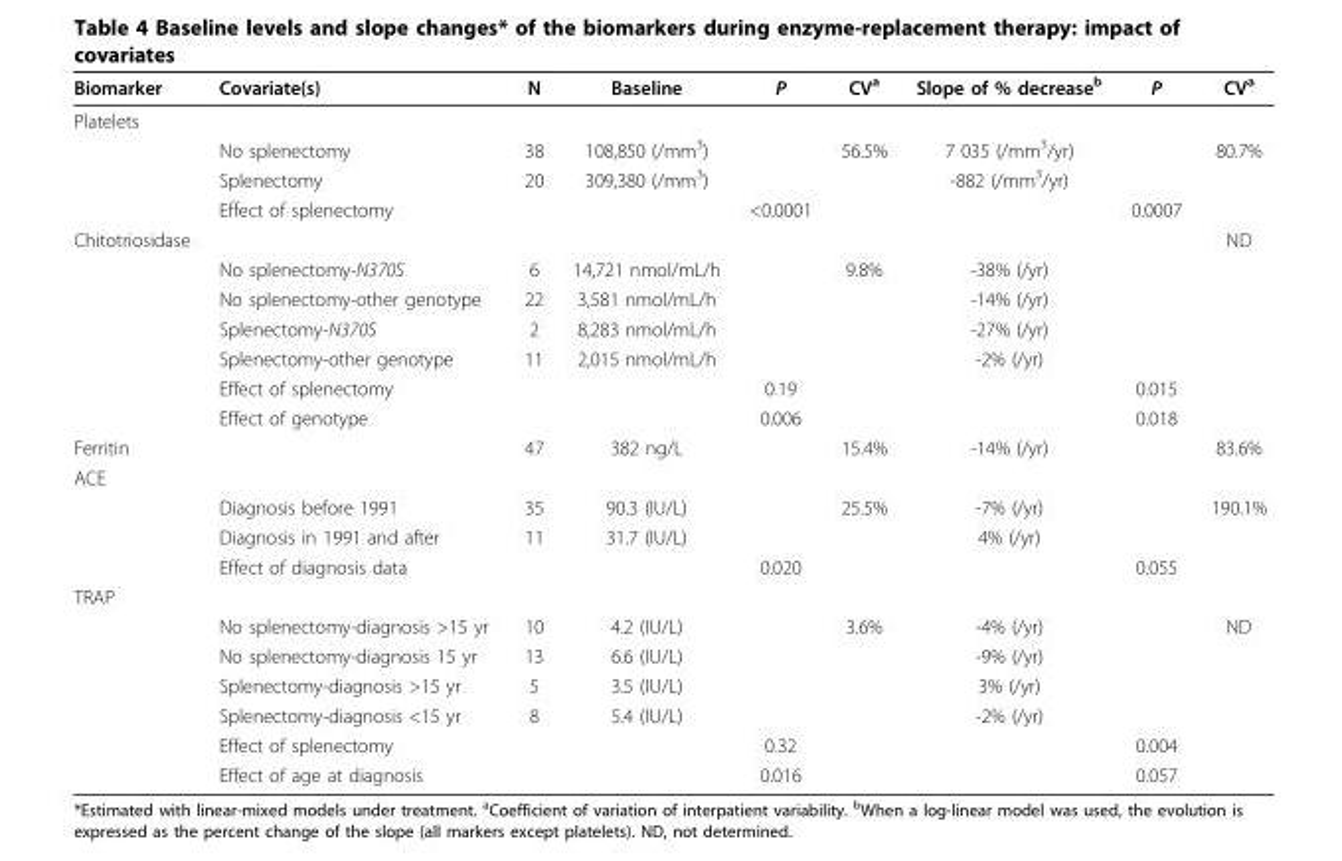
<table><thead><tr><td>Biomarker</td><td>Covariate(s)</td><td>N</td><td>Baseline</td><td>P</td><td>CV<sup>a</sup></td><td>Slope of % decrease<sup>b</sup></td><td>P</td><td>CV<sup>a</sup></td></tr></thead><tbody><tr><td colspan="9">Platelets</td></tr><tr><td></td><td>No splenectomy</td><td>38</td><td>108,850 (/mm<sup>3</sup>)</td><td></td><td>56.5%</td><td>7 035 (/mm<sup>3</sup>/yr)</td><td></td><td>80.7%</td></tr><tr><td></td><td>Splenectomy</td><td>20</td><td>309,380 (/mm<sup>3</sup>)</td><td></td><td></td><td>-882 (/mm<sup>3</sup>/yr)</td><td></td><td></td></tr><tr><td></td><td>Effect of splenectomy</td><td></td><td></td><td>&lt;0.0001</td><td></td><td></td><td>0.0007</td><td></td></tr><tr><td rowspan="7">Chitotriosidase</td><td></td><td></td><td></td><td></td><td></td><td></td><td></td><td>ND</td></tr><tr><td>No splenectomy-N370S</td><td>6</td><td>14,721 nmol/mL/h</td><td></td><td>9.8%</td><td>-38% (/yr)</td><td></td><td></td></tr><tr><td>No splenectomy-other genotype</td><td>22</td><td>3,581 nmol/mL/h</td><td></td><td></td><td>-14% (/yr)</td><td></td><td></td></tr><tr><td>Splenectomy-N370S</td><td>2</td><td>8,283 nmol/mL/h</td><td></td><td></td><td>-27% (/yr)</td><td></td><td></td></tr><tr><td>Splenectomy-other genotype</td><td>11</td><td>2,015 nmol/mL/h</td><td></td><td></td><td>-2% (/yr)</td><td></td><td></td></tr><tr><td>Effect of splenectomy</td><td></td><td></td><td>0.19</td><td></td><td></td><td>0.015</td><td></td></tr><tr><td>Effect of genotype</td><td></td><td></td><td>0.006</td><td></td><td></td><td>0.018</td><td></td></tr><tr><td>Ferritin</td><td></td><td>47</td><td>382 ng/L</td><td></td><td>15.4%</td><td>-14% (/yr)</td><td></td><td>83.6%</td></tr><tr><td colspan="9">ACE</td></tr><tr><td></td><td>Diagnosis before 1991</td><td>35</td><td>90.3 (IU/L)</td><td></td><td>25.5%</td><td>-7% (/yr)</td><td></td><td>190.1%</td></tr><tr><td></td><td>Diagnosis in 1991 and after</td><td>11</td><td>31.7 (IU/L)</td><td></td><td></td><td>4% (/yr)</td><td></td><td></td></tr><tr><td></td><td>Effect of diagnosis data</td><td></td><td></td><td>0.020</td><td></td><td></td><td>0.055</td><td></td></tr><tr><td colspan="9">TRAP</td></tr><tr><td></td><td>No splenectomy-diagnosis &gt;15 yr</td><td>10</td><td>4.2 (IU/L)</td><td></td><td>3.6%</td><td>-4% (/yr)</td><td></td><td>ND</td></tr><tr><td></td><td>No splenectomy-diagnosis 15 yr</td><td>13</td><td>6.6 (IU/L)</td><td></td><td></td><td>-9% (/yr)</td><td></td><td></td></tr><tr><td></td><td>Splenectomy-diagnosis &gt;15 yr</td><td>5</td><td>3.5 (IU/L)</td><td></td><td></td><td>3% (/yr)</td><td></td><td></td></tr><tr><td></td><td>Splenectomy-diagnosis &lt;15 yr</td><td>8</td><td>5.4 (IU/L)</td><td></td><td></td><td>-2% (/yr)</td><td></td><td></td></tr><tr><td></td><td>Effect of splenectomy</td><td></td><td></td><td>0.32</td><td></td><td></td><td>0.004</td><td></td></tr><tr><td></td><td>Effect of age at diagnosis</td><td></td><td></td><td>0.016</td><td></td><td></td><td>0.057</td><td></td></tr></tbody></table>